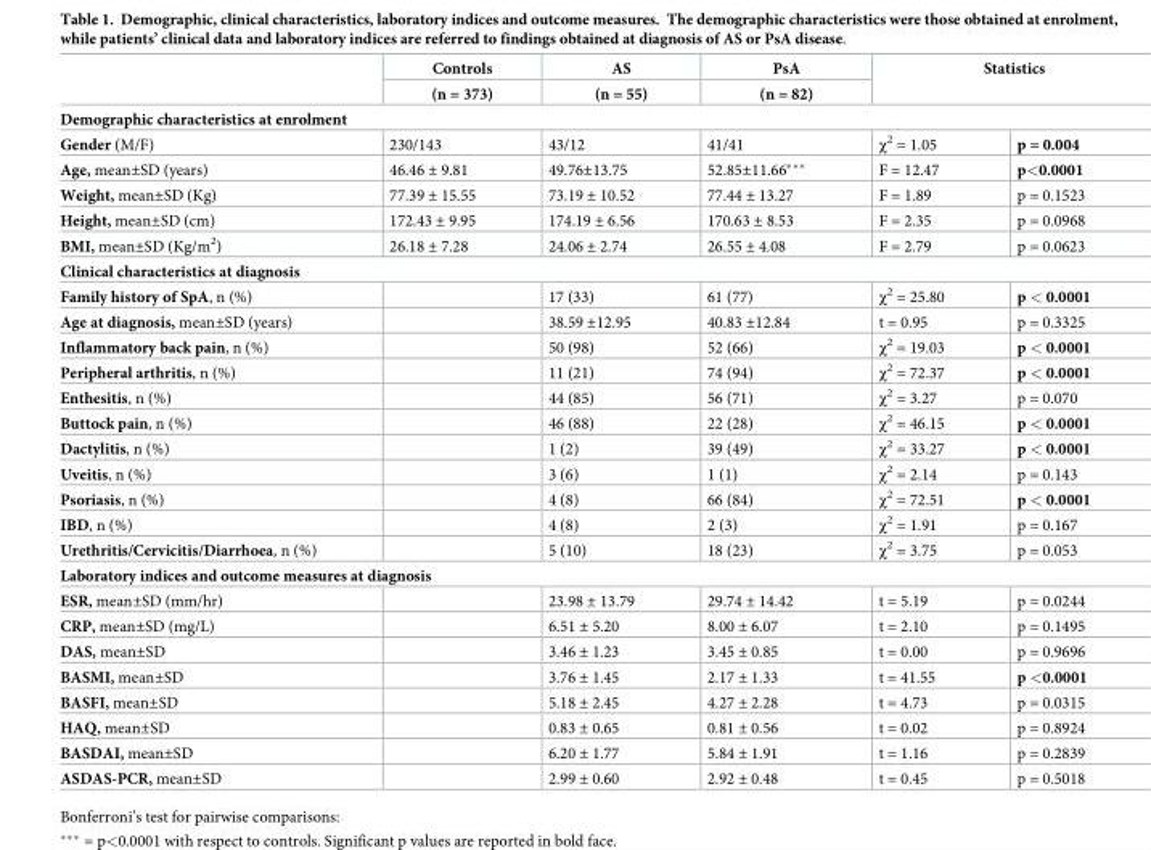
<table><thead><tr><td rowspan="2"></td><td rowspan="2">Controls (n = 373)</td><td rowspan="2">AS (n = 55)</td><td rowspan="2">PsA (n = 82)</td><td rowspan="2" colspan="2">Statistics</td></tr><tr></tr><tr><td colspan="6">Demographic characteristics at enrolment</td></tr><tr><td>Gender (M/F)</td><td>230/143</td><td>43/12</td><td>41/41</td><td>χ<sup>2</sup> = 1.05</td><td>p = 0.004</td></tr></thead><tbody><tr><td>Age, mean±SD (years)</td><td>46.46 ± 9.81</td><td>49.76±13.75</td><td>52.85±11.66***</td><td>F = 12.47</td><td>p&lt;0.0001</td></tr><tr><td>Weight, mean±SD (Kg)</td><td>77.39 ± 15.55</td><td>73.19 ± 10.52</td><td>77.44 ± 13.27</td><td>F = 1.89</td><td>p = 0.1523</td></tr><tr><td>Height, mean±SD (cm)</td><td>172.43 ± 9.95</td><td>174.19 ± 6.56</td><td>170.63 ± 8.53</td><td>F = 2.35</td><td>p = 0.0968</td></tr><tr><td>BMI, mean±SD (Kg/m<sup>2</sup>)</td><td>26.18 ± 7.28</td><td>24.06 ± 2.74</td><td>26.55 ± 4.08</td><td>F = 2.79</td><td>p = 0.0623</td></tr><tr><td colspan="6">Clinical characteristics at diagnosis</td></tr><tr><td>Family history of SpA, n (%)</td><td></td><td>17 (33)</td><td>61 (77)</td><td>χ<sup>2</sup> = 25.80</td><td>p &lt; 0.0001</td></tr><tr><td>Age at diagnosis, mean±SD (years)</td><td></td><td>38.59 ±12.95</td><td>40.83 ±12.84</td><td>t = 0.95</td><td>p = 0.3325</td></tr><tr><td>Inflammatory back pain, n (%)</td><td></td><td>50 (98)</td><td>52 (66)</td><td>χ<sup>2</sup> = 19.03</td><td>p &lt; 0.0001</td></tr><tr><td>Peripheral arthritis, n (%)</td><td></td><td>11 (21)</td><td>74 (94)</td><td>χ<sup>2</sup> = 72.37</td><td>p &lt; 0.0001</td></tr><tr><td>Enthesitis, n (%)</td><td></td><td>44 (85)</td><td>56 (71)</td><td>χ<sup>2</sup> = 3.27</td><td>p = 0.070</td></tr><tr><td>Buttock pain, n (%)</td><td></td><td>46 (88)</td><td>22 (28)</td><td>χ<sup>2</sup> = 46.15</td><td>p &lt; 0.0001</td></tr><tr><td>Dactylitis, n (%)</td><td></td><td>1 (2)</td><td>39 (49)</td><td>χ<sup>2</sup> = 33.27</td><td>p &lt; 0.0001</td></tr><tr><td>Uveitis, n (%)</td><td></td><td>3 (6)</td><td>1 (1)</td><td>χ<sup>2</sup> = 2.14</td><td>p = 0.143</td></tr><tr><td>Psoriasis, n (%)</td><td></td><td>4 (8)</td><td>66 (84)</td><td>χ<sup>2</sup> = 72.51</td><td>p &lt; 0.0001</td></tr><tr><td>IBD, n (%)</td><td></td><td>4 (8)</td><td>2 (3)</td><td>χ<sup>2</sup> = 1.91</td><td>p = 0.167</td></tr><tr><td>Urethritis/Cervicitis/Diarrhoea, n (%)</td><td></td><td>5 (10)</td><td>18 (23)</td><td>χ<sup>2</sup> = 3.75</td><td>p = 0.053</td></tr><tr><td colspan="6">Laboratory indices and outcome measures at diagnosis</td></tr><tr><td>ESR, mean±SD (mm/hr)</td><td></td><td>23.98 ± 13.79</td><td>29.74 ± 14.42</td><td>t = 5.19</td><td>p = 0.0244</td></tr><tr><td>CRP, mean±SD (mg/L)</td><td></td><td>6.51 ± 5.20</td><td>8.00 ± 6.07</td><td>t = 2.10</td><td>p = 0.1495</td></tr><tr><td>DAS, mean±SD</td><td></td><td>3.46 ± 1.23</td><td>3.45 ± 0.85</td><td>t = 0.00</td><td>p = 0.9696</td></tr><tr><td>BASMI, mean±SD</td><td></td><td>3.76 ± 1.45</td><td>2.17 ± 1.33</td><td>t = 41.55</td><td>p &lt;0.0001</td></tr><tr><td>BASFI, mean±SD</td><td></td><td>5.18 ± 2.45</td><td>4.27 ± 2.28</td><td>t = 4.73</td><td>p = 0.0315</td></tr><tr><td>HAQ, mean±SD</td><td></td><td>0.83 ± 0.65</td><td>0.81 ± 0.56</td><td>t = 0.02</td><td>p = 0.8924</td></tr><tr><td>BASDAI, mean±SD</td><td></td><td>6.20 ± 1.77</td><td>5.84 ± 1.91</td><td>t = 1.16</td><td>p = 0.2839</td></tr><tr><td>ASDAS-PCR, mean±SD</td><td></td><td>2.99 ± 0.60</td><td>2.92 ± 0.48</td><td>t = 0.45</td><td>p = 0.5018</td></tr></tbody></table>